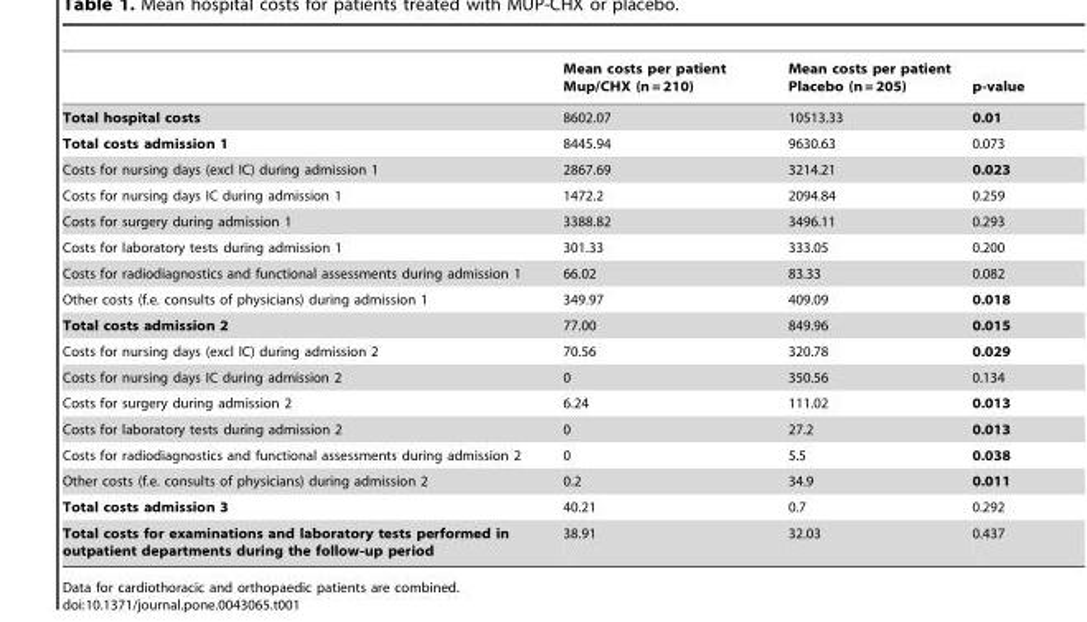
<table><thead><tr><td></td><td>Mean costs per patient Mup/CHX (n = 210)</td><td>Mean costs per patient Placebo (n = 205)</td><td>p-value</td></tr></thead><tbody><tr><td>Total hospital costs</td><td>8602.07</td><td>10513.33</td><td>0.01</td></tr><tr><td>Total costs admission 1</td><td>8445.94</td><td>9630.63</td><td>0.073</td></tr><tr><td>Costs for nursing days (excl IC) during admission 1</td><td>2867.69</td><td>3214.21</td><td>0.023</td></tr><tr><td>Costs for nursing days IC during admission 1</td><td>1472.2</td><td>2094.84</td><td>0.259</td></tr><tr><td>Costs for surgery during admission 1</td><td>3388.82</td><td>3496.11</td><td>0.293</td></tr><tr><td>Costs for laboratory tests during admission 1</td><td>301.33</td><td>333.05</td><td>0.200</td></tr><tr><td>Costs for radiodiagnostics and functional assessments during admission 1</td><td>66.02</td><td>83.33</td><td>0.082</td></tr><tr><td>Other costs (f.e. consults of physicians) during admission 1</td><td>349.97</td><td>409.09</td><td>0.018</td></tr><tr><td>Total costs admission 2</td><td>77.00</td><td>849.96</td><td>0.015</td></tr><tr><td>Costs for nursing days (excl IC) during admission 2</td><td>70.56</td><td>320.78</td><td>0.029</td></tr><tr><td>Costs for nursing days IC during admission 2</td><td>0</td><td>350.56</td><td>0.134</td></tr><tr><td>Costs for surgery during admission 2</td><td>6.24</td><td>111.02</td><td>0.013</td></tr><tr><td>Costs for laboratory tests during admission 2</td><td>0</td><td>27.2</td><td>0.013</td></tr><tr><td>Costs for radiodiagnostics and functional assessments during admission 2</td><td>0</td><td>5.5</td><td>0.038</td></tr><tr><td>Other costs (f.e. consults of physicians) during admission 2</td><td>0.2</td><td>34.9</td><td>0.011</td></tr><tr><td>Total costs admission 3</td><td>40.21</td><td>0.7</td><td>0.292</td></tr><tr><td>Total costs for examinations and laboratory tests performed in outpatient departments during the follow-up period</td><td>38.91</td><td>32.03</td><td>0.437</td></tr></tbody></table>